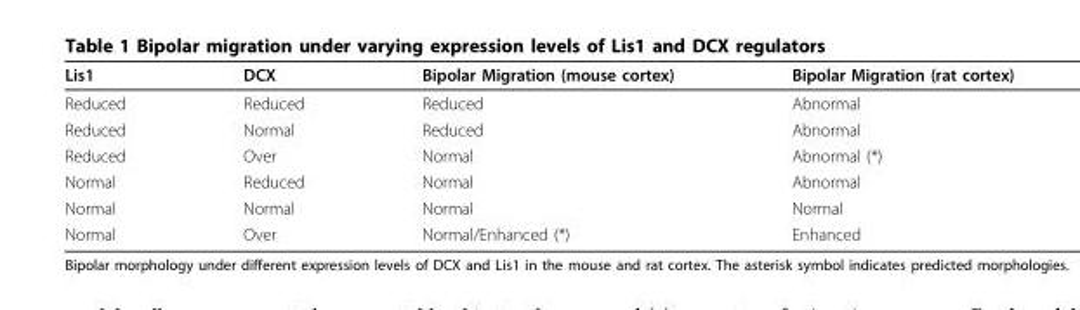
<table><thead><tr><td>Lis1</td><td>DCX</td><td>Bipolar Migration (mouse cortex)</td><td>Bipolar Migration (rat cortex)</td></tr></thead><tbody><tr><td>Reduced</td><td>Reduced</td><td>Reduced</td><td>Abnormal</td></tr><tr><td>Reduced</td><td>Normal</td><td>Reduced</td><td>Abnormal</td></tr><tr><td>Reduced</td><td>Over</td><td>Normal</td><td>Abnormal (*)</td></tr><tr><td>Normal</td><td>Reduced</td><td>Normal</td><td>Abnormal</td></tr><tr><td>Normal</td><td>Normal</td><td>Normal</td><td>Normal</td></tr><tr><td>Normal</td><td>Over</td><td>Normal/Enhanced (*)</td><td>Enhanced</td></tr></tbody></table>